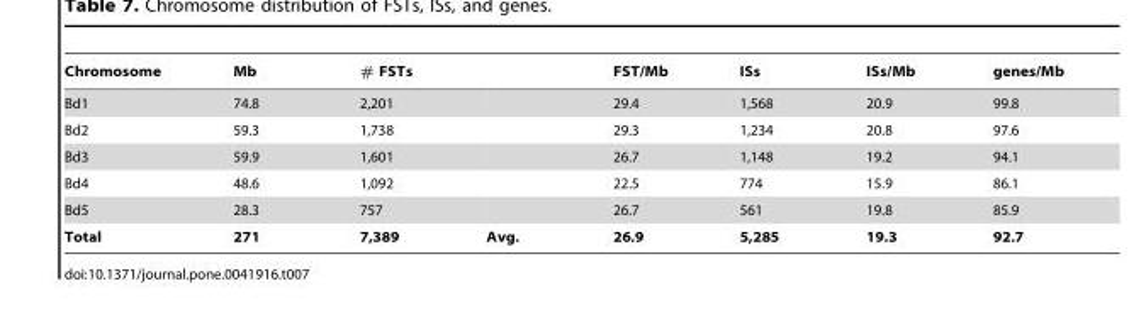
<table><thead><tr><td>Chromosome</td><td>Mb</td><td># FSTs</td><td></td><td>FST/Mb</td><td>ISs</td><td>ISs/Mb</td><td>genes/Mb</td></tr></thead><tbody><tr><td>Bd1</td><td>74.8</td><td>2,201</td><td></td><td>29.4</td><td>1,568</td><td>20.9</td><td>99.8</td></tr><tr><td>Bd2</td><td>59.3</td><td>1,738</td><td></td><td>29.3</td><td>1,234</td><td>20.8</td><td>97.6</td></tr><tr><td>Bd3</td><td>59.9</td><td>1,601</td><td></td><td>26.7</td><td>1,148</td><td>19.2</td><td>94.1</td></tr><tr><td>Bd4</td><td>48.6</td><td>1,092</td><td></td><td>22.5</td><td>774</td><td>15.9</td><td>86.1</td></tr><tr><td>Bd5</td><td>28.3</td><td>757</td><td></td><td>26.7</td><td>561</td><td>19.8</td><td>85.9</td></tr><tr><td>Total</td><td>271</td><td>7,389</td><td>Avg.</td><td>26.9</td><td>5,285</td><td>19.3</td><td>92.7</td></tr></tbody></table>